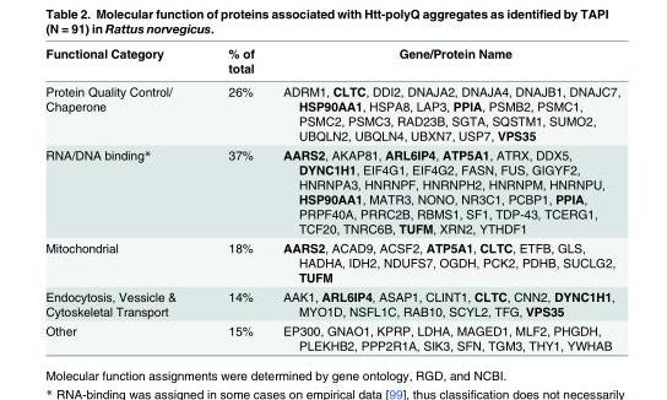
<table><thead><tr><td>Functional Category</td><td>% of total</td><td>Gene/Protein Name</td></tr></thead><tbody><tr><td>Protein Quality Control/ Chaperone</td><td>26%</td><td>ADRM1, CLTC, DDI2, DNAJA2, DNAJA4, DNAJB1, DNAJC7, HSP90AA1, HSPA8, LAP3, PPIA, PSMB2, PSMC1, PSMC2, PSMC3, RAD23B, SGTA, SQSTM1, SUMO2, UBQLN2, UBQLN4, UBXN7, USP7, VPS35</td></tr><tr><td>RNA/DNA binding*</td><td>37%</td><td>AARS2, AKAP81, ARL6IP4, ATP5A1, ATRX, DDX5, DYNC1H1, EIF4G1, EIF4G2, FASN, FUS, GIGYF2, HNRNPA3, HNRNPF, HNRNPH2, HNRNPM, HNRNPU, HSP90AA1, MATR3, NONO, NR3C1, PCBP1, PPIA, PRPF40A, PRRC2B, RBMS1, SF1, TDP-43, TCERG1, TCF20, TNRC6B, TUFM, XRN2, YTHDF1</td></tr><tr><td>Mitochondrial</td><td>18%</td><td>AARS2, ACAD9, ACSF2, ATP5A1, CLTC, ETFB, GLS, HADHA, IDH2, NDUFS7, OGDH, PCK2, PDHB, SUCLG2, TUFM</td></tr><tr><td>Endocytosis, Vessicle &amp; Cytoskeletal Transport</td><td>14%</td><td>AAK1, ARL6IP4, ASAP1, CLINT1, CLTC, CNN2, DYNC1H1, MYO1D, NSFL1C, RAB10, SCYL2, TFG, VPS35</td></tr><tr><td>Other</td><td>15%</td><td>EP300, GNAO1, KPRP, LDHA, MAGED1, MLF2, PHGDH, PLEKHB2, PPP2R1A, SIK3, SFN, TGM3, THY1, YWHAB</td></tr></tbody></table>